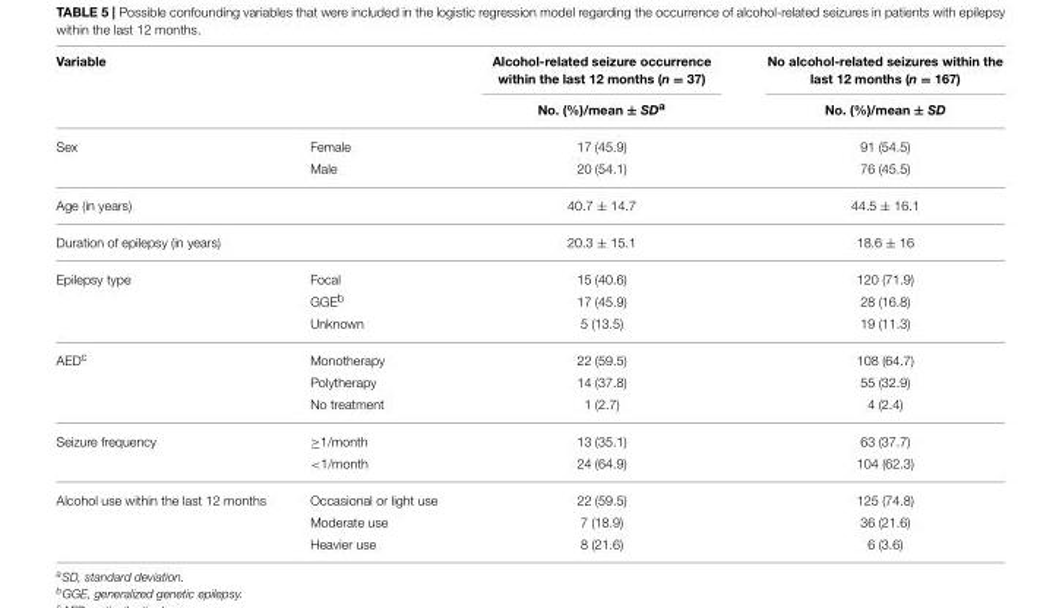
<table><thead><tr><td rowspan="2">Variable</td><td rowspan="2"></td><td rowspan="2">Alcohol-related seizure occurrence within the last 12 months (n = 37) No. (%)/mean ± SD<sup>a</sup></td><td rowspan="2">No alcohol-related seizures within the last 12 months (n = 167) No. (%)/mean ± SD</td></tr><tr></tr></thead><tbody><tr><td rowspan="2">Sex</td><td>Female</td><td>17 (45.9)</td><td>91 (54.5)</td></tr><tr><td>Male</td><td>20 (54.1)</td><td>76 (45.5)</td></tr><tr><td>Age (in years)</td><td></td><td>40.7 ± 14.7</td><td>44.5 ± 16.1</td></tr><tr><td>Duration of epilepsy (in years)</td><td></td><td>20.3 ± 15.1</td><td>18.6 ± 16</td></tr><tr><td rowspan="3">Epilepsy type</td><td>Focal</td><td>15 (40.6)</td><td>120 (71.9)</td></tr><tr><td>GGE<sup>b</sup></td><td>17 (45.9)</td><td>28 (16.8)</td></tr><tr><td>Unknown</td><td>5 (13.5)</td><td>19 (11.3)</td></tr><tr><td rowspan="3">AED<sup>c</sup></td><td>Monotherapy</td><td>22 (59.5)</td><td>108 (64.7)</td></tr><tr><td>Polytherapy</td><td>14 (37.8)</td><td>55 (32.9)</td></tr><tr><td>No treatment</td><td>1 (2.7)</td><td>4 (2.4)</td></tr><tr><td rowspan="2">Seizure frequency</td><td>≥1/month</td><td>13 (35.1)</td><td>63 (37.7)</td></tr><tr><td>&lt;1/month</td><td>24 (64.9)</td><td>104 (62.3)</td></tr><tr><td rowspan="3">Alcohol use within the last 12 months</td><td>Occasional or light use</td><td>22 (59.5)</td><td>125 (74.8)</td></tr><tr><td>Moderate use</td><td>7 (18.9)</td><td>36 (21.6)</td></tr><tr><td>Heavier use</td><td>8 (21.6)</td><td>6 (3.6)</td></tr></tbody></table>